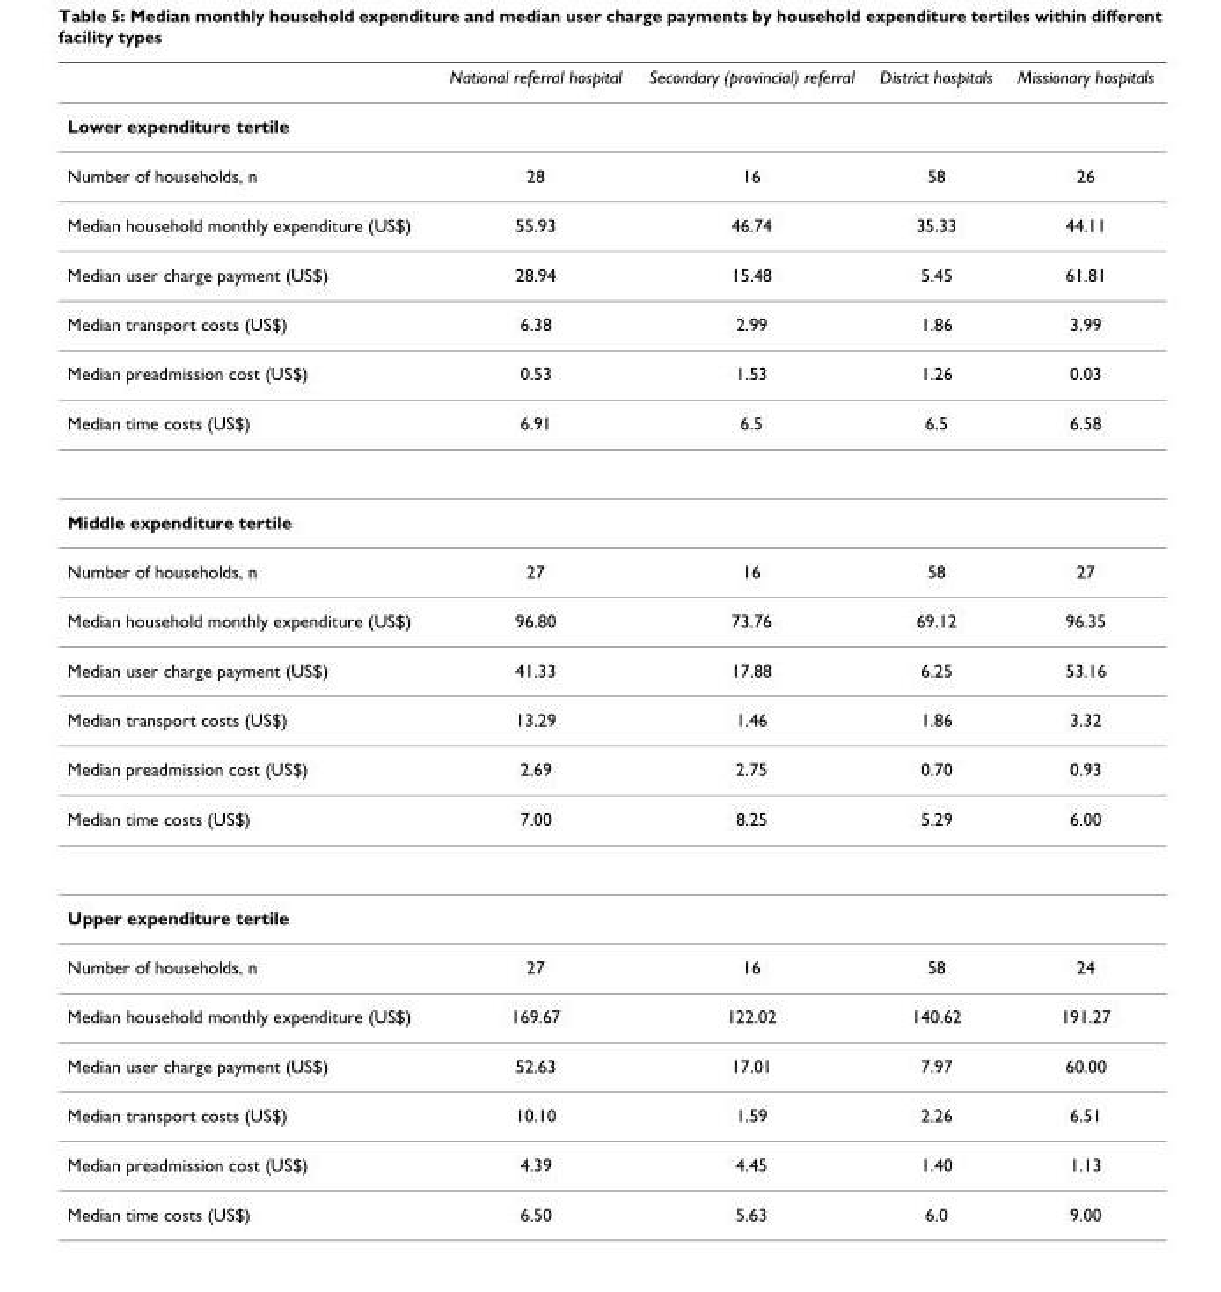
<table><thead><tr><td></td><td>National referral hospital</td><td>Secondary (provincial) referral</td><td>District hospitals</td><td>Missionary hospitals</td></tr></thead><tbody><tr><td colspan="5">Lower expenditure tertile</td></tr><tr><td>Number of households, n</td><td>28</td><td>16</td><td>58</td><td>26</td></tr><tr><td>Median household monthly expenditure (US$)</td><td>55.93</td><td>46.74</td><td>35.33</td><td>44.11</td></tr><tr><td>Median user charge payment (US$)</td><td>28.94</td><td>15.48</td><td>5.45</td><td>61.81</td></tr><tr><td>Median transport costs (US$)</td><td>6.38</td><td>2.99</td><td>1.86</td><td>3.99</td></tr><tr><td>Median preadmission cost (US$)</td><td>0.53</td><td>1.53</td><td>1.26</td><td>0.03</td></tr><tr><td>Median time costs (US$)</td><td>6.91</td><td>6.5</td><td>6.5</td><td>6.58</td></tr><tr><td colspan="5">Middle expenditure tertile</td></tr><tr><td>Number of households, n</td><td>27</td><td>16</td><td>58</td><td>27</td></tr><tr><td>Median household monthly expenditure (US$)</td><td>96.80</td><td>73.76</td><td>69.12</td><td>96.35</td></tr><tr><td>Median user charge payment (US$)</td><td>41.33</td><td>17.88</td><td>6.25</td><td>53.16</td></tr><tr><td>Median transport costs (US$)</td><td>13.29</td><td>1.46</td><td>1.86</td><td>3.32</td></tr><tr><td>Median preadmission cost (US$)</td><td>2.69</td><td>2.75</td><td>0.70</td><td>0.93</td></tr><tr><td>Median time costs (US$)</td><td>7.00</td><td>8.25</td><td>5.29</td><td>6.00</td></tr><tr><td colspan="5">Upper expenditure tertile</td></tr><tr><td>Number of households, n</td><td>27</td><td>16</td><td>58</td><td>24</td></tr><tr><td>Median household monthly expenditure (US$)</td><td>169.67</td><td>122.02</td><td>140.62</td><td>191.27</td></tr><tr><td>Median user charge payment (US$)</td><td>52.63</td><td>17.01</td><td>7.97</td><td>60.00</td></tr><tr><td>Median transport costs (US$)</td><td>10.10</td><td>1.59</td><td>2.26</td><td>6.51</td></tr><tr><td>Median preadmission cost (US$)</td><td>4.39</td><td>4.45</td><td>1.40</td><td>1.13</td></tr><tr><td>Median time costs (US$)</td><td>6.50</td><td>5.63</td><td>6.0</td><td>9.00</td></tr></tbody></table>